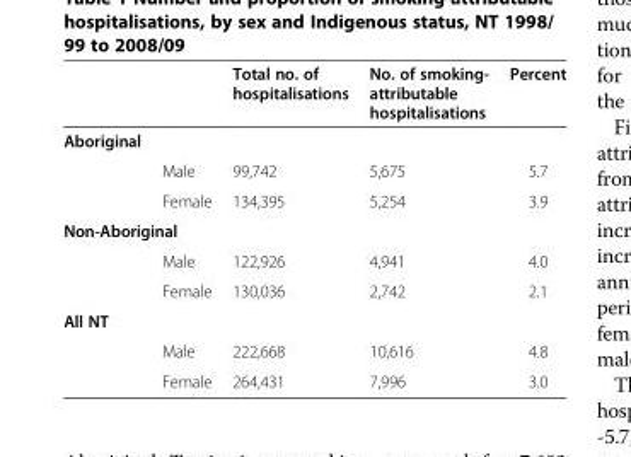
<table><thead><tr><td></td><td></td><td>Total no. of hospitalisations</td><td>No. of smoking- attributable hospitalisations</td><td>Percent</td></tr></thead><tbody><tr><td colspan="5">Aboriginal</td></tr><tr><td></td><td>Male</td><td>99,742</td><td>5,675</td><td>5.7</td></tr><tr><td></td><td>Female</td><td>134,395</td><td>5,254</td><td>3.9</td></tr><tr><td colspan="5">Non-Aboriginal</td></tr><tr><td></td><td>Male</td><td>122,926</td><td>4,941</td><td>4.0</td></tr><tr><td></td><td>Female</td><td>130,036</td><td>2,742</td><td>2.1</td></tr><tr><td colspan="5">All NT</td></tr><tr><td></td><td>Male</td><td>222,668</td><td>10,616</td><td>4.8</td></tr><tr><td></td><td>Female</td><td>264,431</td><td>7,996</td><td>3.0</td></tr></tbody></table>